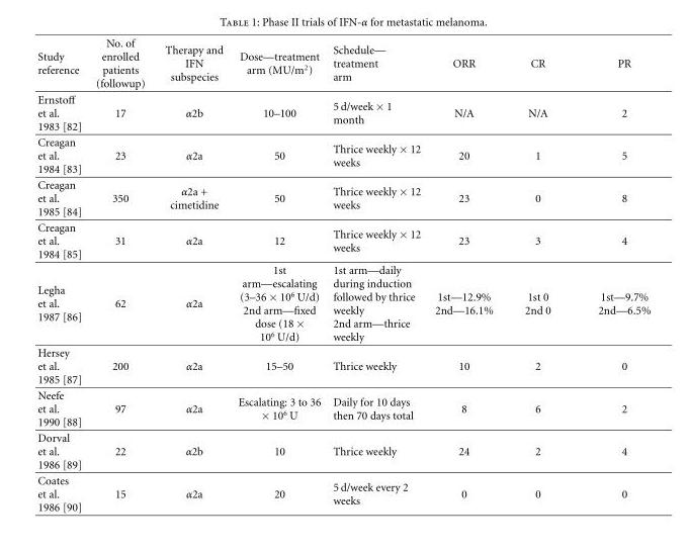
<table><thead><tr><td>Study reference</td><td>No. of enrolled patients (followup)</td><td>Therapy and IFN subspecies</td><td>Dose—treatment arm (MU/m<sup>2</sup>)</td><td>Schedule— treatment arm</td><td>ORR</td><td>CR</td><td>PR</td></tr></thead><tbody><tr><td>Ernstoff et al. 1983 [82]</td><td>17</td><td>α2b</td><td>10–100</td><td>5 d/week × 1 month</td><td>N/A</td><td>N/A</td><td>2</td></tr><tr><td>Creagan et al. 1984 [83]</td><td>23</td><td>α2a</td><td>50</td><td>Thrice weekly × 12 weeks</td><td>20</td><td>1</td><td>5</td></tr><tr><td>Creagan et al. 1985 [84]</td><td>350</td><td>α2a + cimetidine</td><td>50</td><td>Thrice weekly × 12 weeks</td><td>23</td><td>0</td><td>8</td></tr><tr><td>Creagan et al. 1984 [85]</td><td>31</td><td>α2a</td><td>12</td><td>Thrice weekly × 12 weeks</td><td>23</td><td>3</td><td>4</td></tr><tr><td>Legha et al. 1987 [86]</td><td>62</td><td>α2a</td><td>1st arm—escalating (3–36 × 10<sup>6</sup> U/d) 2nd arm—fixed dose (18 × 10<sup>6</sup> U/d)</td><td>1st arm—daily during induction followed by thrice weekly 2nd arm—thrice weekly</td><td>1st—12.9% 2nd—16.1%</td><td>1st 0 2nd 0</td><td>1st—9.7% 2nd—6.5%</td></tr><tr><td>Hersey et al. 1985 [87]</td><td>200</td><td>α2a</td><td>15–50</td><td>Thrice weekly</td><td>10</td><td>2</td><td>0</td></tr><tr><td>Neefe et al. 1990 [88]</td><td>97</td><td>α2a</td><td>Escalating: 3 to 36 × 10<sup>6</sup> U</td><td>Daily for 10 days then 70 days total</td><td>8</td><td>6</td><td>2</td></tr><tr><td>Dorval et al. 1986 [89]</td><td>22</td><td>α2b</td><td>10</td><td>Thrice weekly</td><td>24</td><td>2</td><td>4</td></tr><tr><td>Coates et al. 1986 [90]</td><td>15</td><td>α2a</td><td>20</td><td>5 d/week every 2 weeks</td><td>0</td><td>0</td><td>0</td></tr></tbody></table>